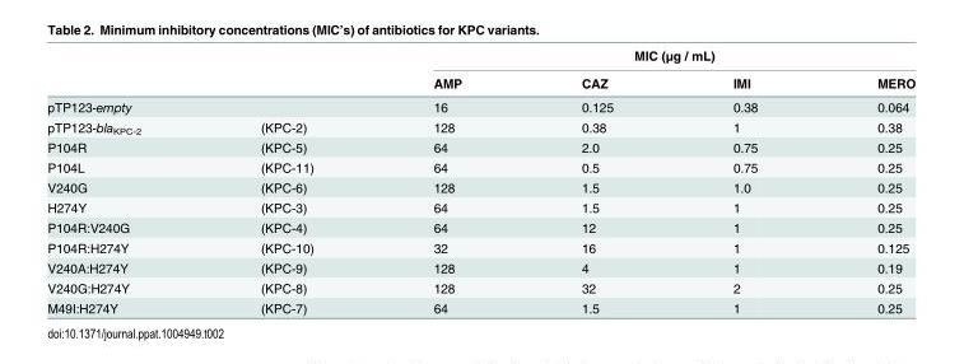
<table><thead><tr><td rowspan="2"></td><td rowspan="2"></td><td colspan="4">MIC (μg / mL)</td></tr><tr><td>AMP</td><td>CAZ</td><td>IMI</td><td>MERO</td></tr></thead><tbody><tr><td>pTP123-empty</td><td></td><td>16</td><td>0.125</td><td>0.38</td><td>0.064</td></tr><tr><td>pTP123-bla<sub>KPC-2</sub></td><td>(KPC-2)</td><td>128</td><td>0.38</td><td>1</td><td>0.38</td></tr><tr><td>P104R</td><td>(KPC-5)</td><td>64</td><td>2.0</td><td>0.75</td><td>0.25</td></tr><tr><td>P104L</td><td>(KPC-11)</td><td>64</td><td>0.5</td><td>0.75</td><td>0.25</td></tr><tr><td>V240G</td><td>(KPC-6)</td><td>128</td><td>1.5</td><td>1.0</td><td>0.25</td></tr><tr><td>H274Y</td><td>(KPC-3)</td><td>64</td><td>1.5</td><td>1</td><td>0.25</td></tr><tr><td>P104R:V240G</td><td>(KPC-4)</td><td>64</td><td>12</td><td>1</td><td>0.25</td></tr><tr><td>P104R:H274Y</td><td>(KPC-10)</td><td>32</td><td>16</td><td>1</td><td>0.125</td></tr><tr><td>V240A:H274Y</td><td>(KPC-9)</td><td>128</td><td>4</td><td>1</td><td>0.19</td></tr><tr><td>V240G:H274Y</td><td>(KPC-8)</td><td>128</td><td>32</td><td>2</td><td>0.25</td></tr><tr><td>M49I:H274Y</td><td>(KPC-7)</td><td>64</td><td>1.5</td><td>1</td><td>0.25</td></tr></tbody></table>